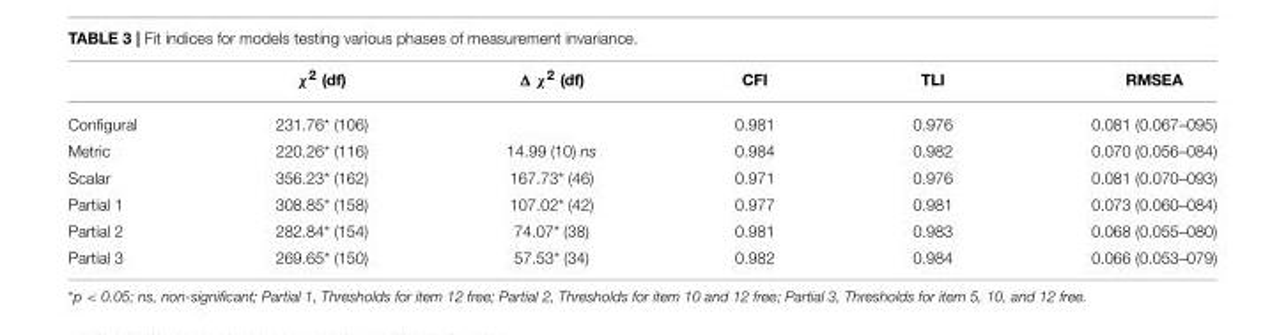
<table><thead><tr><td></td><td>χ<sup>2</sup> (df)</td><td>Δ χ<sup>2</sup> (df)</td><td>CFI</td><td>TLI</td><td>RMSEA</td></tr></thead><tbody><tr><td>Configural</td><td>231.76* (106)</td><td></td><td>0.981</td><td>0.976</td><td>0.081 (0.067–095)</td></tr><tr><td>Metric</td><td>220.26* (116)</td><td>14.99 (10) ns</td><td>0.984</td><td>0.982</td><td>0.070 (0.056–084)</td></tr><tr><td>Scalar</td><td>356.23* (162)</td><td>167.73* (46)</td><td>0.971</td><td>0.976</td><td>0.081 (0.070–093)</td></tr><tr><td>Partial 1</td><td>308.85* (158)</td><td>107.02* (42)</td><td>0.977</td><td>0.981</td><td>0.073 (0.060–084)</td></tr><tr><td>Partial 2</td><td>282.84* (154)</td><td>74.07* (38)</td><td>0.981</td><td>0.983</td><td>0.068 (0.055–080)</td></tr><tr><td>Partial 3</td><td>269.65* (150)</td><td>57.53* (34)</td><td>0.982</td><td>0.984</td><td>0.066 (0.053–079)</td></tr></tbody></table>